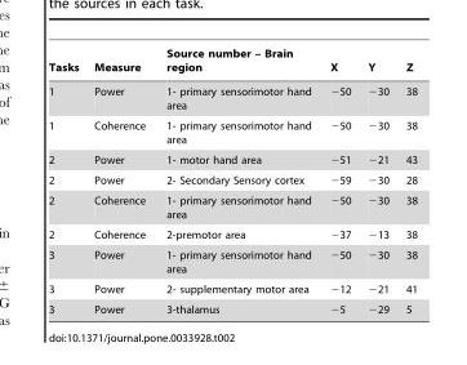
<table><thead><tr><td>Tasks</td><td>Measure</td><td>Source number – Brain region</td><td>X</td><td>Y</td><td>Z</td></tr></thead><tbody><tr><td>1</td><td>Power</td><td>1- primary sensorimotor hand area</td><td>−50</td><td>−30</td><td>38</td></tr><tr><td>1</td><td>Coherence</td><td>1- primary sensorimotor hand area</td><td>−50</td><td>−30</td><td>38</td></tr><tr><td>2</td><td>Power</td><td>1- motor hand area</td><td>−51</td><td>−21</td><td>43</td></tr><tr><td>2</td><td>Power</td><td>2- Secondary Sensory cortex</td><td>−59</td><td>−30</td><td>28</td></tr><tr><td>2</td><td>Coherence</td><td>1- primary sensorimotor hand area</td><td>−50</td><td>−30</td><td>38</td></tr><tr><td>2</td><td>Coherence</td><td>2-premotor area</td><td>−37</td><td>−13</td><td>38</td></tr><tr><td>3</td><td>Power</td><td>1- primary sensorimotor hand area</td><td>−50</td><td>−30</td><td>38</td></tr><tr><td>3</td><td>Power</td><td>2- supplementary motor area</td><td>−12</td><td>−21</td><td>41</td></tr><tr><td>3</td><td>Power</td><td>3-thalamus</td><td>−5</td><td>−29</td><td>5</td></tr></tbody></table>